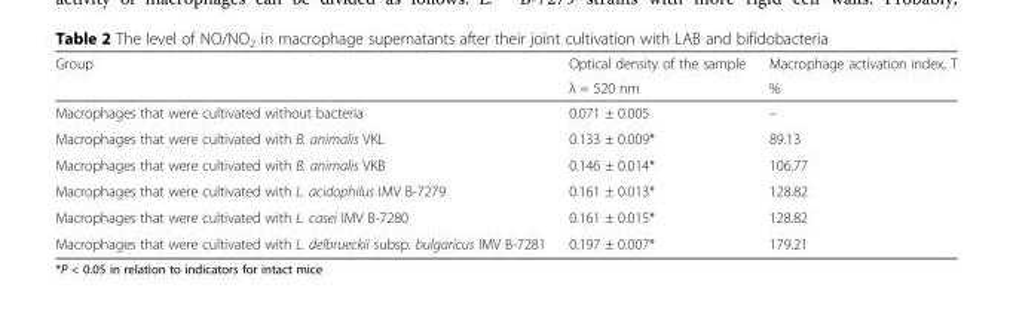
<table><thead><tr><td rowspan="2">Group</td><td rowspan="2">Optical density of the sample λ = 520 nm</td><td rowspan="2">Macrophage activation index, T %</td></tr><tr></tr></thead><tbody><tr><td>Macrophages that were cultivated without bacteria</td><td>0.071 ± 0.005</td><td>–</td></tr><tr><td>Macrophages that were cultivated with B. animalis VKL</td><td>0.133 ± 0.009*</td><td>89.13</td></tr><tr><td>Macrophages that were cultivated with B. animalis VKB</td><td>0.146 ± 0.014*</td><td>106.77</td></tr><tr><td>Macrophages that were cultivated with L. acidophilus IMV В-7279</td><td>0.161 ± 0.013*</td><td>128.82</td></tr><tr><td>Macrophages that were cultivated with L. casei IMV В-7280</td><td>0.161 ± 0.015*</td><td>128.82</td></tr><tr><td>Macrophages that were cultivated with L. delbruеckii subsp. bulgaricus IMV В-7281</td><td>0.197 ± 0.007*</td><td>179.21</td></tr></tbody></table>